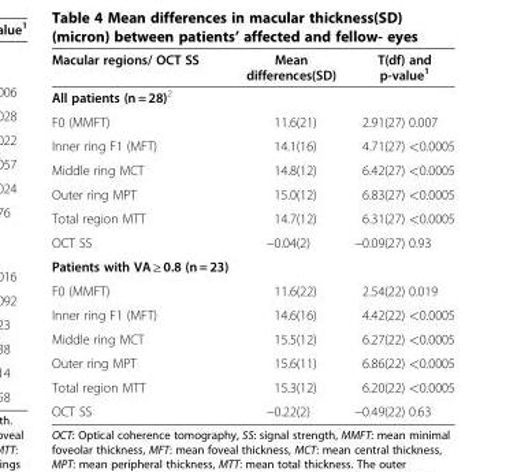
<table><thead><tr><td>Macular regions/ OCT SS</td><td>Mean differences(SD)</td><td>T(df) and p-value<sup>1</sup></td></tr></thead><tbody><tr><td colspan="3">All patients (n = 28)<sup>2</sup></td></tr><tr><td>F0 (MMFT)</td><td>11.6(21)</td><td>2.91(27) 0.007</td></tr><tr><td>Inner ring F1 (MFT)</td><td>14.1(16)</td><td>4.71(27) &lt;0.0005</td></tr><tr><td>Middle ring MCT</td><td>14.8(12)</td><td>6.42(27) &lt;0.0005</td></tr><tr><td>Outer ring MPT</td><td>15.0(12)</td><td>6.83(27) &lt;0.0005</td></tr><tr><td>Total region MTT</td><td>14.7(12)</td><td>6.31(27) &lt;0.0005</td></tr><tr><td>OCT SS</td><td>−0.04(2)</td><td>−0.09(27) 0.93</td></tr><tr><td colspan="3">Patients with VA ≥ 0.8 (n = 23)</td></tr><tr><td>F0 (MMFT)</td><td>11.6(22)</td><td>2.54(22) 0.019</td></tr><tr><td>Inner ring F1 (MFT)</td><td>14.6(16)</td><td>4.42(22) &lt;0.0005</td></tr><tr><td>Middle ring MCT</td><td>15.5(12)</td><td>6.27(22) &lt;0.0005</td></tr><tr><td>Outer ring MPT</td><td>15.6(11)</td><td>6.86(22) &lt;0.0005</td></tr><tr><td>Total region MTT</td><td>15.3(12)</td><td>6.20(22) &lt;0.0005</td></tr><tr><td>OCT SS</td><td>−0.22(2)</td><td>−0.49(22) 0.63</td></tr></tbody></table>